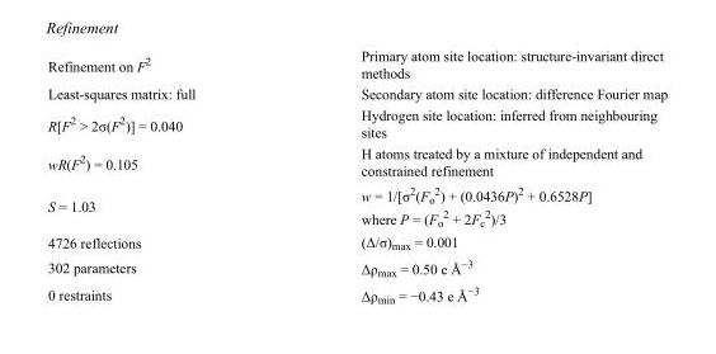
<table><tbody><tr><td>Refinement on F<sup>2</sup></td><td>Primary atom site location: structure-invariant direct methods</td></tr><tr><td>Least-squares matrix: full</td><td>Secondary atom site location: difference Fourier map</td></tr><tr><td>R[F<sup>2</sup> &gt; 2σ(F<sup>2</sup>)] = 0.040</td><td>Hydrogen site location: inferred from neighbouring sites</td></tr><tr><td>wR(F<sup>2</sup>) = 0.105</td><td>H atoms treated by a mixture of independent and constrained refinement</td></tr><tr><td>S = 1.03</td><td>w = 1/[σ<sup>2</sup>(F<sub>o</sub> <sup>2</sup>) + (0.0436P)<sup>2</sup> + 0.6528P] where P = (F<sub>o</sub> <sup>2</sup> + 2F<sub>c</sub> <sup>2</sup>)/3</td></tr><tr><td>4726 reflections</td><td>(Δ/σ)<sub>max</sub> = 0.001</td></tr><tr><td>302 parameters</td><td>Δρ<sub>max</sub> = 0.50 e Å<sup>−3</sup></td></tr><tr><td>0 restraints</td><td>Δρmin = −0.43 e Å−3</td></tr></tbody></table>